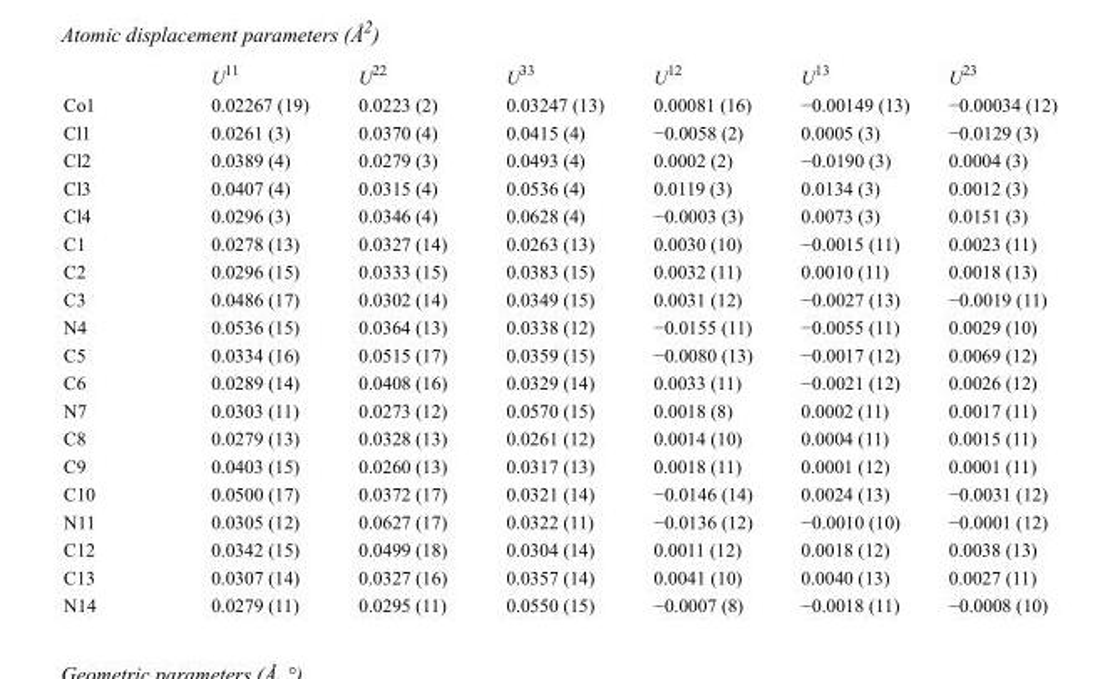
<table><thead><tr><td></td><td>U<sup>11</sup></td><td>U<sup>22</sup></td><td>U<sup>33</sup></td><td>U<sup>12</sup></td><td>U<sup>13</sup></td><td>U<sup>23</sup></td></tr></thead><tbody><tr><td>Co1</td><td>0.02267 (19)</td><td>0.0223 (2)</td><td>0.03247 (13)</td><td>0.00081 (16)</td><td>−0.00149 (13)</td><td>−0.00034 (12)</td></tr><tr><td>Cl1</td><td>0.0261 (3)</td><td>0.0370 (4)</td><td>0.0415 (4)</td><td>−0.0058 (2)</td><td>0.0005 (3)</td><td>−0.0129 (3)</td></tr><tr><td>Cl2</td><td>0.0389 (4)</td><td>0.0279 (3)</td><td>0.0493 (4)</td><td>0.0002 (2)</td><td>−0.0190 (3)</td><td>0.0004 (3)</td></tr><tr><td>Cl3</td><td>0.0407 (4)</td><td>0.0315 (4)</td><td>0.0536 (4)</td><td>0.0119 (3)</td><td>0.0134 (3)</td><td>0.0012 (3)</td></tr><tr><td>Cl4</td><td>0.0296 (3)</td><td>0.0346 (4)</td><td>0.0628 (4)</td><td>−0.0003 (3)</td><td>0.0073 (3)</td><td>0.0151 (3)</td></tr><tr><td>C1</td><td>0.0278 (13)</td><td>0.0327 (14)</td><td>0.0263 (13)</td><td>0.0030 (10)</td><td>−0.0015 (11)</td><td>0.0023 (11)</td></tr><tr><td>C2</td><td>0.0296 (15)</td><td>0.0333 (15)</td><td>0.0383 (15)</td><td>0.0032 (11)</td><td>0.0010 (11)</td><td>0.0018 (13)</td></tr><tr><td>C3</td><td>0.0486 (17)</td><td>0.0302 (14)</td><td>0.0349 (15)</td><td>0.0031 (12)</td><td>−0.0027 (13)</td><td>−0.0019 (11)</td></tr><tr><td>N4</td><td>0.0536 (15)</td><td>0.0364 (13)</td><td>0.0338 (12)</td><td>−0.0155 (11)</td><td>−0.0055 (11)</td><td>0.0029 (10)</td></tr><tr><td>C5</td><td>0.0334 (16)</td><td>0.0515 (17)</td><td>0.0359 (15)</td><td>−0.0080 (13)</td><td>−0.0017 (12)</td><td>0.0069 (12)</td></tr><tr><td>C6</td><td>0.0289 (14)</td><td>0.0408 (16)</td><td>0.0329 (14)</td><td>0.0033 (11)</td><td>−0.0021 (12)</td><td>0.0026 (12)</td></tr><tr><td>N7</td><td>0.0303 (11)</td><td>0.0273 (12)</td><td>0.0570 (15)</td><td>0.0018 (8)</td><td>0.0002 (11)</td><td>0.0017 (11)</td></tr><tr><td>C8</td><td>0.0279 (13)</td><td>0.0328 (13)</td><td>0.0261 (12)</td><td>0.0014 (10)</td><td>0.0004 (11)</td><td>0.0015 (11)</td></tr><tr><td>C9</td><td>0.0403 (15)</td><td>0.0260 (13)</td><td>0.0317 (13)</td><td>0.0018 (11)</td><td>0.0001 (12)</td><td>0.0001 (11)</td></tr><tr><td>C10</td><td>0.0500 (17)</td><td>0.0372 (17)</td><td>0.0321 (14)</td><td>−0.0146 (14)</td><td>0.0024 (13)</td><td>−0.0031 (12)</td></tr><tr><td>N11</td><td>0.0305 (12)</td><td>0.0627 (17)</td><td>0.0322 (11)</td><td>−0.0136 (12)</td><td>−0.0010 (10)</td><td>−0.0001 (12)</td></tr><tr><td>C12</td><td>0.0342 (15)</td><td>0.0499 (18)</td><td>0.0304 (14)</td><td>0.0011 (12)</td><td>0.0018 (12)</td><td>0.0038 (13)</td></tr><tr><td>C13</td><td>0.0307 (14)</td><td>0.0327 (16)</td><td>0.0357 (14)</td><td>0.0041 (10)</td><td>0.0040 (13)</td><td>0.0027 (11)</td></tr><tr><td>N14</td><td>0.0279 (11)</td><td>0.0295 (11)</td><td>0.0550 (15)</td><td>−0.0007 (8)</td><td>−0.0018 (11)</td><td>−0.0008 (10)</td></tr></tbody></table>